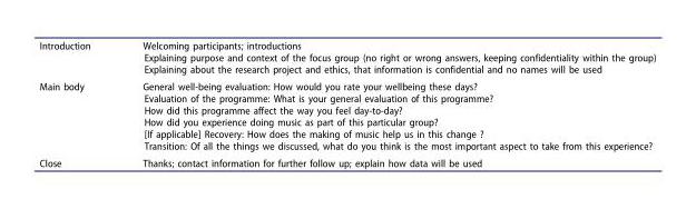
<table><tbody><tr><td>Introduction</td><td>Welcoming participants; introductions Explaining purpose and context of the focus group (no right or wrong answers, keeping confidentiality within the group) Explaining about the research project and ethics, that information is confidential and no names will be used</td></tr><tr><td>Main body</td><td>General well-being evaluation: How would you rate your wellbeing these days? Evaluation of the programme: What is your general evaluation of this programme? How did this programme affect the way you feel day-to-day? How did you experience doing music as part of this particular group? [If applicable] Recovery: How does the making of music help us in this change ? Transition: Of all the things we discussed, what do you think is the most important aspect to take from this experience?</td></tr><tr><td>Close</td><td>Thanks; contact information for further follow up; explain how data will be used</td></tr></tbody></table>